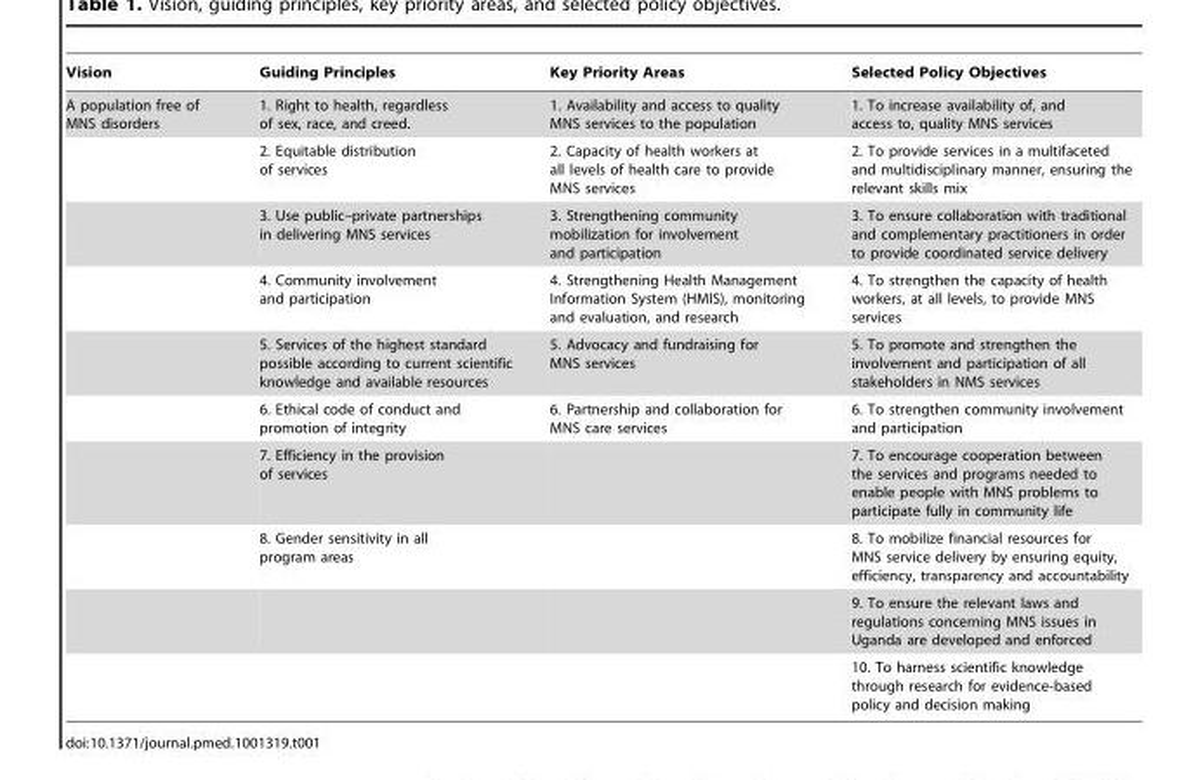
<table><thead><tr><td>Vision</td><td>Guiding Principles</td><td>Key Priority Areas</td><td>Selected Policy Objectives</td></tr></thead><tbody><tr><td rowspan="10">A population free of MNS disorders</td><td>1. Right to health, regardless of sex, race, and creed.</td><td>1. Availability and access to quality MNS services to the population</td><td>1. To increase availability of, and access to, quality MNS services</td></tr><tr><td>2. Equitable distribution of services</td><td>2. Capacity of health workers at all levels of health care to provide MNS services</td><td>2. To provide services in a multifaceted and multidisciplinary manner, ensuring the relevant skills mix</td></tr><tr><td>3. Use public–private partnerships in delivering MNS services</td><td>3. Strengthening community mobilization for involvement and participation</td><td>3. To ensure collaboration with traditional and complementary practitioners in order to provide coordinated service delivery</td></tr><tr><td>4. Community involvement and participation</td><td>4. Strengthening Health Management Information System (HMIS), monitoring and evaluation, and research</td><td>4. To strengthen the capacity of health workers, at all levels, to provide MNS services</td></tr><tr><td>5. Services of the highest standard possible according to current scientific knowledge and available resources</td><td>5. Advocacy and fundraising for MNS services</td><td>5. To promote and strengthen the involvement and participation of all stakeholders in NMS services</td></tr><tr><td>6. Ethical code of conduct and promotion of integrity</td><td>6. Partnership and collaboration for MNS care services</td><td>6. To strengthen community involvement and participation</td></tr><tr><td>7. Efficiency in the provision of services</td><td></td><td>7. To encourage cooperation between the services and programs needed to enable people with MNS problems to participate fully in community life</td></tr><tr><td>8. Gender sensitivity in all program areas</td><td></td><td>8. To mobilize financial resources for MNS service delivery by ensuring equity, efficiency, transparency and accountability</td></tr><tr><td></td><td></td><td>9. To ensure the relevant laws and regulations concerning MNS issues in Uganda are developed and enforced</td></tr><tr><td></td><td></td><td>10. To harness scientific knowledge through research for evidence-based policy and decision making</td></tr></tbody></table>